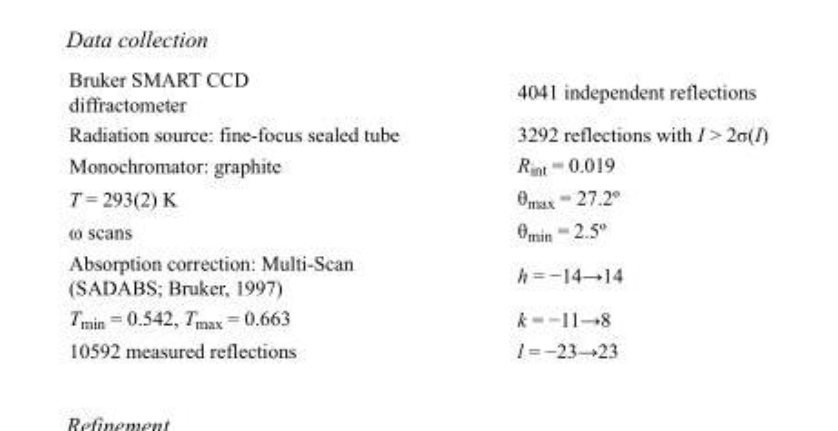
<table><tbody><tr><td>Bruker SMART CCD diffractometer</td><td>4041 independent reflections</td></tr><tr><td>Radiation source: fine-focus sealed tube</td><td>3292 reflections with I &gt; 2σ(I)</td></tr><tr><td>Monochromator: graphite</td><td>R<sub>int</sub> = 0.019</td></tr><tr><td>T = 293(2) K</td><td>θ<sub>max</sub> = 27.2º</td></tr><tr><td>ω scans</td><td>θ<sub>min</sub> = 2.5º</td></tr><tr><td>Absorption correction: Multi-Scan (SADABS; Bruker, 1997)</td><td>h = −14→14</td></tr><tr><td>T<sub>min</sub> = 0.542, T<sub>max</sub> = 0.663</td><td>k = −11→8</td></tr><tr><td>10592 measured reflections</td><td>l = −23→23</td></tr></tbody></table>